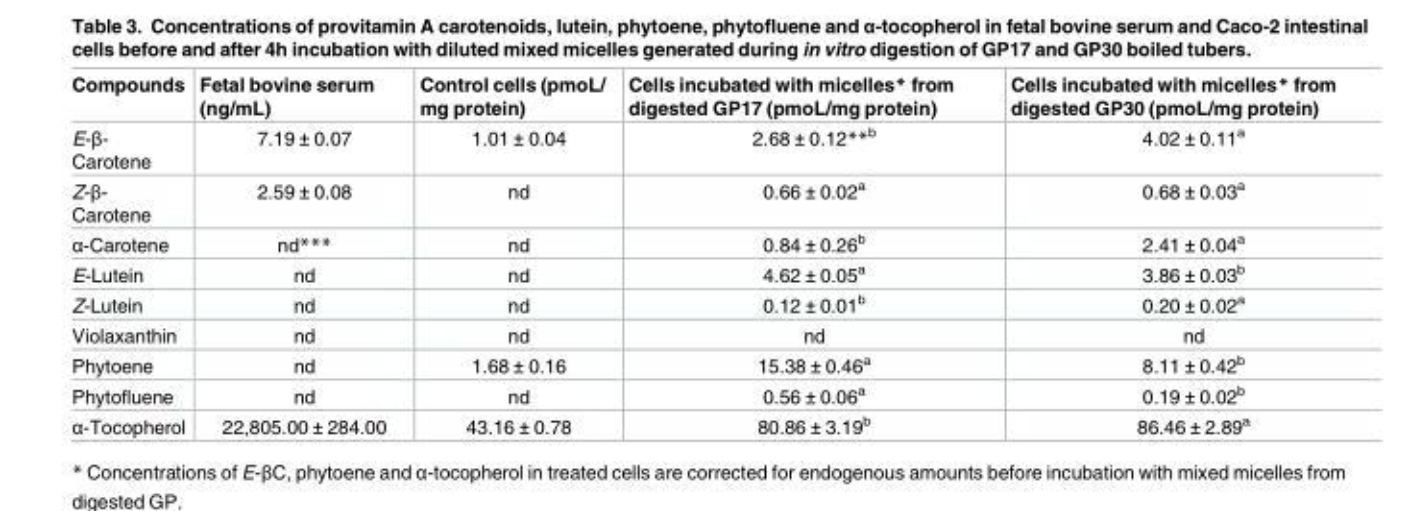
<table><thead><tr><td>Compounds</td><td>Fetal bovine serum (ng/mL)</td><td>Control cells (pmoL/ mg protein)</td><td>Cells incubated with micelles* from digested GP17 (pmoL/mg protein)</td><td>Cells incubated with micelles* from digested GP30 (pmoL/mg protein)</td></tr></thead><tbody><tr><td>E-β- Carotene</td><td>7.19 ± 0.07</td><td>1.01 ± 0.04</td><td>2.68 ± 0.12**<sup>b</sup></td><td>4.02 ± 0.11<sup>a</sup></td></tr><tr><td>Z-β- Carotene</td><td>2.59 ± 0.08</td><td>nd</td><td>0.66 ± 0.02<sup>a</sup></td><td>0.68 ± 0.03<sup>a</sup></td></tr><tr><td>α-Carotene</td><td>nd***</td><td>nd</td><td>0.84 ± 0.26<sup>b</sup></td><td>2.41 ± 0.04<sup>a</sup></td></tr><tr><td>E-Lutein</td><td>nd</td><td>nd</td><td>4.62 ± 0.05<sup>a</sup></td><td>3.86 ± 0.03<sup>b</sup></td></tr><tr><td>Z-Lutein</td><td>nd</td><td>nd</td><td>0.12 ± 0.01<sup>b</sup></td><td>0.20 ± 0.02<sup>a</sup></td></tr><tr><td>Violaxanthin</td><td>nd</td><td>nd</td><td>nd</td><td>nd</td></tr><tr><td>Phytoene</td><td>nd</td><td>1.68 ± 0.16</td><td>15.38 ± 0.46<sup>a</sup></td><td>8.11 ± 0.42<sup>b</sup></td></tr><tr><td>Phytofluene</td><td>nd</td><td>nd</td><td>0.56 ± 0.06<sup>a</sup></td><td>0.19 ± 0.02<sup>b</sup></td></tr><tr><td>α-Tocopherol</td><td>22,805.00 ± 284.00</td><td>43.16 ± 0.78</td><td>80.86 ± 3.19<sup>b</sup></td><td>86.46 ± 2.89<sup>a</sup></td></tr></tbody></table>